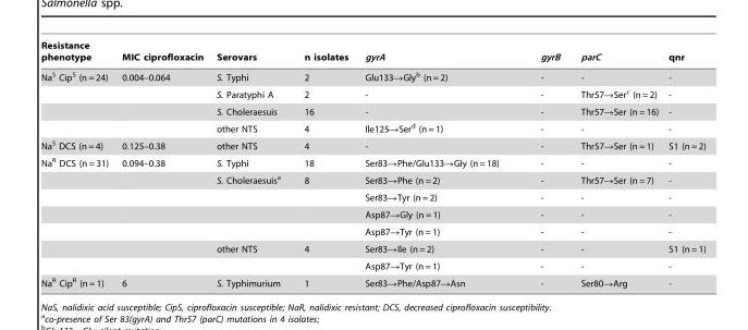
<table><thead><tr><td>Resistance phenotype</td><td>MIC ciprofloxacin</td><td>Serovars</td><td>n isolates</td><td>gyrA</td><td>gyrB</td><td>parC</td><td>qnr</td></tr></thead><tbody><tr><td rowspan="4">Na<sup>S</sup> Cip<sup>S</sup> (n = 24)</td><td>0.004–0.064</td><td>S. Typhi</td><td>2</td><td>Glu133→Gly<sup>b</sup> (n = 2)</td><td>-</td><td>-</td><td>-</td></tr><tr><td></td><td>S. Paratyphi A</td><td>2</td><td>-</td><td>-</td><td>Thr57→Ser<sup>c</sup> (n = 2)</td><td>-</td></tr><tr><td></td><td>S. Choleraesuis</td><td>16</td><td>-</td><td>-</td><td>Thr57→Ser (n = 16)</td><td>-</td></tr><tr><td></td><td>other NTS</td><td>4</td><td>Ile125→Ser<sup>d</sup> (n = 1)</td><td>-</td><td>-</td><td>-</td></tr><tr><td>Na<sup>S</sup> DCS (n = 4)</td><td>0.125–0.38</td><td>other NTS</td><td>4</td><td>-</td><td>-</td><td>Thr57→Ser (n = 1)</td><td>S1 (n = 2)</td></tr><tr><td rowspan="7">Na<sup>R</sup> DCS (n = 31)</td><td>0.094–0.38</td><td>S. Typhi</td><td>18</td><td>Ser83→Phe/Glu133→Gly (n = 18)</td><td>-</td><td>-</td><td>-</td></tr><tr><td></td><td>S. Choleraesuis<sup>a</sup></td><td>8</td><td>Ser83→Phe (n = 2)</td><td>-</td><td>Thr57→Ser (n = 7)</td><td>-</td></tr><tr><td></td><td></td><td></td><td>Ser83→Tyr (n = 2)</td><td>-</td><td>-</td><td>-</td></tr><tr><td></td><td></td><td></td><td>Asp87→Gly (n = 1)</td><td>-</td><td>-</td><td>-</td></tr><tr><td></td><td></td><td></td><td>Asp87→Tyr (n = 1)</td><td>-</td><td>-</td><td>-</td></tr><tr><td></td><td>other NTS</td><td>4</td><td>Ser83→Ile (n = 2)</td><td>-</td><td>-</td><td>S1 (n = 1)</td></tr><tr><td></td><td></td><td></td><td>Asp87→Tyr (n = 1)</td><td>-</td><td>-</td><td>-</td></tr><tr><td>Na<sup>R</sup> Cip<sup>R</sup> (n = 1)</td><td>6</td><td>S. Typhimurium</td><td>1</td><td>Ser83→Phe/Asp87→Asn</td><td>-</td><td>Ser80→Arg</td><td>-</td></tr></tbody></table>